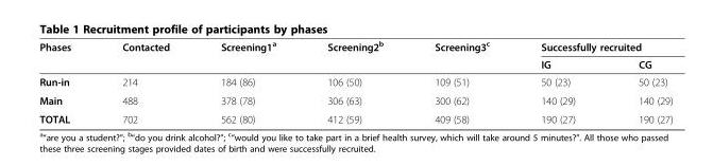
<table><thead><tr><td rowspan="2">Phases</td><td rowspan="2">Contacted</td><td rowspan="2">Screening1<sup>a</sup></td><td rowspan="2">Screening2<sup>b</sup></td><td rowspan="2">Screening3<sup>c</sup></td><td colspan="2">Successfully recruited</td></tr><tr><td>IG</td><td>CG</td></tr></thead><tbody><tr><td>Run-in</td><td>214</td><td>184 (86)</td><td>106 (50)</td><td>109 (51)</td><td>50 (23)</td><td>50 (23)</td></tr><tr><td>Main</td><td>488</td><td>378 (78)</td><td>306 (63)</td><td>300 (62)</td><td>140 (29)</td><td>140 (29)</td></tr><tr><td>TOTAL</td><td>702</td><td>562 (80)</td><td>412 (59)</td><td>409 (58)</td><td>190 (27)</td><td>190 (27)</td></tr></tbody></table>